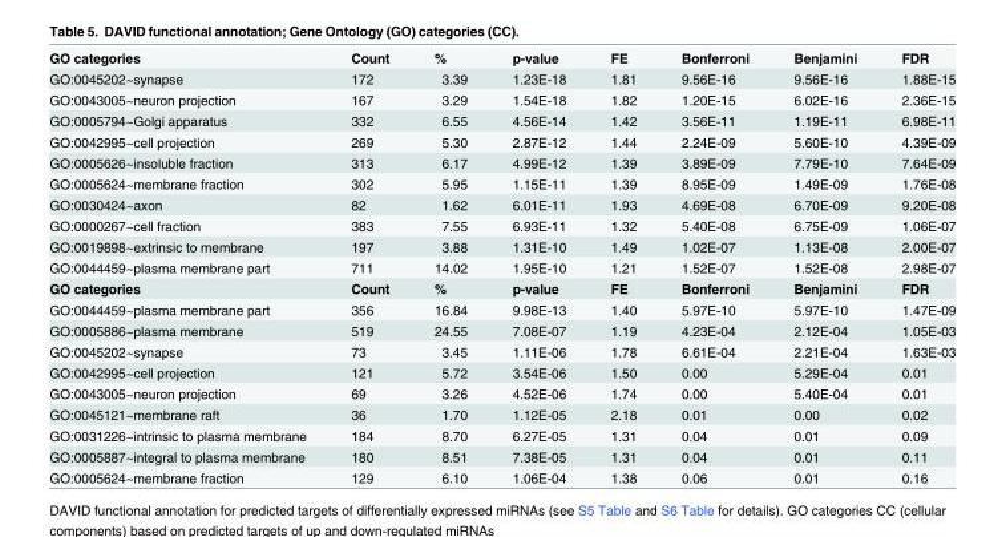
<table><tbody><tr><td>GO categories</td><td>Count</td><td>%</td><td>p-value</td><td>FE</td><td>Bonferroni</td><td>Benjamini</td><td>FDR</td></tr><tr><td>GO:0045202~synapse</td><td>172</td><td>3.39</td><td>1.23E-18</td><td>1.81</td><td>9.56E-16</td><td>9.56E-16</td><td>1.88E-15</td></tr><tr><td>GO:0043005~neuron projection</td><td>167</td><td>3.29</td><td>1.54E-18</td><td>1.82</td><td>1.20E-15</td><td>6.02E-16</td><td>2.36E-15</td></tr><tr><td>GO:0005794~Golgi apparatus</td><td>332</td><td>6.55</td><td>4.56E-14</td><td>1.42</td><td>3.56E-11</td><td>1.19E-11</td><td>6.98E-11</td></tr><tr><td>GO:0042995~cell projection</td><td>269</td><td>5.30</td><td>2.87E-12</td><td>1.44</td><td>2.24E-09</td><td>5.60E-10</td><td>4.39E-09</td></tr><tr><td>GO:0005626~insoluble fraction</td><td>313</td><td>6.17</td><td>4.99E-12</td><td>1.39</td><td>3.89E-09</td><td>7.79E-10</td><td>7.64E-09</td></tr><tr><td>GO:0005624~membrane fraction</td><td>302</td><td>5.95</td><td>1.15E-11</td><td>1.39</td><td>8.95E-09</td><td>1.49E-09</td><td>1.76E-08</td></tr><tr><td>GO:0030424~axon</td><td>82</td><td>1.62</td><td>6.01E-11</td><td>1.93</td><td>4.69E-08</td><td>6.70E-09</td><td>9.20E-08</td></tr><tr><td>GO:0000267~cell fraction</td><td>383</td><td>7.55</td><td>6.93E-11</td><td>1.32</td><td>5.40E-08</td><td>6.75E-09</td><td>1.06E-07</td></tr><tr><td>GO:0019898~extrinsic to membrane</td><td>197</td><td>3.88</td><td>1.31E-10</td><td>1.49</td><td>1.02E-07</td><td>1.13E-08</td><td>2.00E-07</td></tr><tr><td>GO:0044459~plasma membrane part</td><td>711</td><td>14.02</td><td>1.95E-10</td><td>1.21</td><td>1.52E-07</td><td>1.52E-08</td><td>2.98E-07</td></tr><tr><td>GO categories</td><td>Count</td><td>%</td><td>p-value</td><td>FE</td><td>Bonferroni</td><td>Benjamini</td><td>FDR</td></tr><tr><td>GO:0044459~plasma membrane part</td><td>356</td><td>16.84</td><td>9.98E-13</td><td>1.40</td><td>5.97E-10</td><td>5.97E-10</td><td>1.47E-09</td></tr><tr><td>GO:0005886~plasma membrane</td><td>519</td><td>24.55</td><td>7.08E-07</td><td>1.19</td><td>4.23E-04</td><td>2.12E-04</td><td>1.05E-03</td></tr><tr><td>GO:0045202~synapse</td><td>73</td><td>3.45</td><td>1.11E-06</td><td>1.78</td><td>6.61E-04</td><td>2.21E-04</td><td>1.63E-03</td></tr><tr><td>GO:0042995~cell projection</td><td>121</td><td>5.72</td><td>3.54E-06</td><td>1.50</td><td>0.00</td><td>5.29E-04</td><td>0.01</td></tr><tr><td>GO:0043005~neuron projection</td><td>69</td><td>3.26</td><td>4.52E-06</td><td>1.74</td><td>0.00</td><td>5.40E-04</td><td>0.01</td></tr><tr><td>GO:0045121~membrane raft</td><td>36</td><td>1.70</td><td>1.12E-05</td><td>2.18</td><td>0.01</td><td>0.00</td><td>0.02</td></tr><tr><td>GO:0031226~intrinsic to plasma membrane</td><td>184</td><td>8.70</td><td>6.27E-05</td><td>1.31</td><td>0.04</td><td>0.01</td><td>0.09</td></tr><tr><td>GO:0005887~integral to plasma membrane</td><td>180</td><td>8.51</td><td>7.38E-05</td><td>1.31</td><td>0.04</td><td>0.01</td><td>0.11</td></tr><tr><td>GO:0005624~membrane fraction</td><td>129</td><td>6.10</td><td>1.06E-04</td><td>1.38</td><td>0.06</td><td>0.01</td><td>0.16</td></tr></tbody></table>